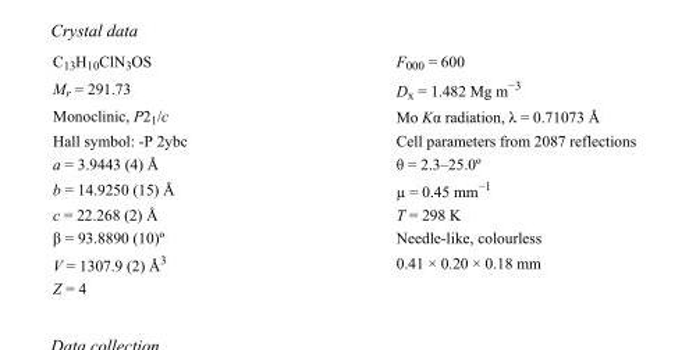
<table><tbody><tr><td>C<sub>13</sub>H<sub>10</sub>ClN<sub>3</sub>OS</td><td>F000 = 600</td></tr><tr><td>M<sub>r</sub> = 291.73</td><td>D<sub>x</sub> = 1.482 Mg m<sup>−3</sup></td></tr><tr><td>Monoclinic, P2<sub>1</sub>/c</td><td>Mo Kα radiation, λ = 0.71073 Å</td></tr><tr><td>Hall symbol: -P 2ybc</td><td>Cell parameters from 2087 reflections</td></tr><tr><td>a = 3.9443 (4) Å</td><td>θ = 2.3–25.0º</td></tr><tr><td>b = 14.9250 (15) Å</td><td>µ = 0.45 mm<sup>−1</sup></td></tr><tr><td>c = 22.268 (2) Å</td><td>T = 298 K</td></tr><tr><td>β = 93.8890 (10)º</td><td>Needle-like, colourless</td></tr><tr><td>V = 1307.9 (2) Å<sup>3</sup></td><td>0.41 × 0.20 × 0.18 mm</td></tr><tr><td>Z = 4</td><td></td></tr></tbody></table>